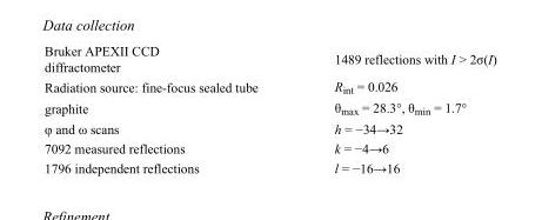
<table><tbody><tr><td>Bruker APEXII CCD diffractometer</td><td>1489 reflections with I &gt; 2σ(I)</td></tr><tr><td>Radiation source: fine-focus sealed tube</td><td>R<sub>int</sub> = 0.026</td></tr><tr><td>graphite</td><td>θ<sub>max</sub> = 28.3°, θ<sub>min</sub> = 1.7°</td></tr><tr><td>φ and ω scans</td><td>h = −34→32</td></tr><tr><td>7092 measured reflections</td><td>k = −4→6</td></tr><tr><td>1796 independent reflections</td><td>l = −16→16</td></tr></tbody></table>